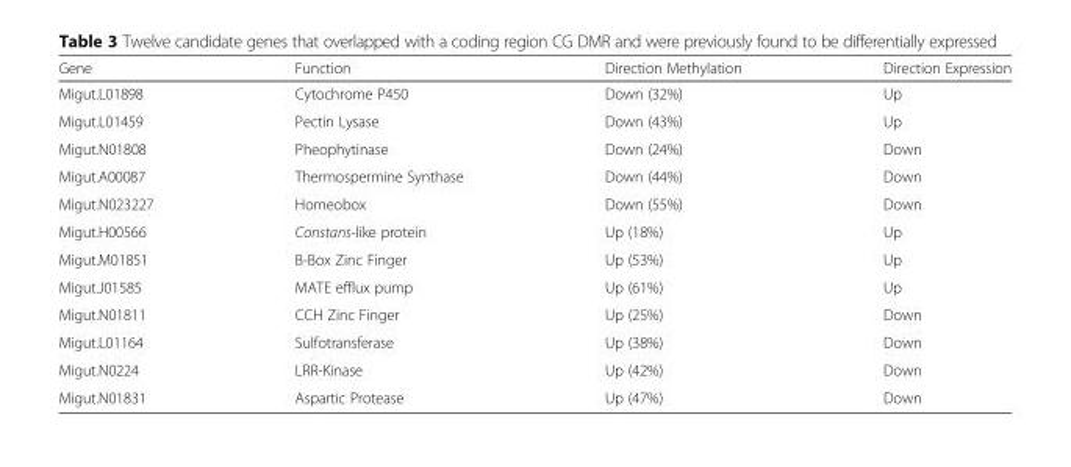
<table><thead><tr><td>Gene</td><td>Function</td><td>Direction Methylation</td><td>Direction Expression</td></tr></thead><tbody><tr><td>Migut.L01898</td><td>Cytochrome P450</td><td>Down (32%)</td><td>Up</td></tr><tr><td>Migut.L01459</td><td>Pectin Lysase</td><td>Down (43%)</td><td>Up</td></tr><tr><td>Migut.N01808</td><td>Pheophytinase</td><td>Down (24%)</td><td>Down</td></tr><tr><td>Migut.A00087</td><td>Thermospermine Synthase</td><td>Down (44%)</td><td>Down</td></tr><tr><td>Migut.N023227</td><td>Homeobox</td><td>Down (55%)</td><td>Down</td></tr><tr><td>Migut.H00566</td><td>Constans-like protein</td><td>Up (18%)</td><td>Up</td></tr><tr><td>Migut.M01851</td><td>B-Box Zinc Finger</td><td>Up (53%)</td><td>Up</td></tr><tr><td>Migut.J01585</td><td>MATE efflux pump</td><td>Up (61%)</td><td>Up</td></tr><tr><td>Migut.N01811</td><td>CCH Zinc Finger</td><td>Up (25%)</td><td>Down</td></tr><tr><td>Migut.L01164</td><td>Sulfotransferase</td><td>Up (38%)</td><td>Down</td></tr><tr><td>Migut.N0224</td><td>LRR-Kinase</td><td>Up (42%)</td><td>Down</td></tr><tr><td>Migut.N01831</td><td>Aspartic Protease</td><td>Up (47%)</td><td>Down</td></tr></tbody></table>